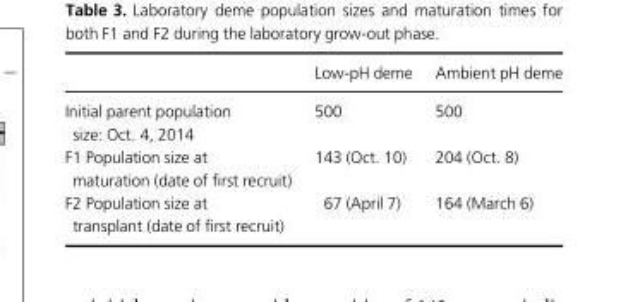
<table><thead><tr><td></td><td>Low-pH deme</td><td>Ambient pH deme</td></tr></thead><tbody><tr><td>Initial parent population size: Oct. 4, 2014</td><td>500</td><td>500</td></tr><tr><td>F1 Population size at maturation (date of first recruit)</td><td>143 (Oct. 10)</td><td>204 (Oct. 8)</td></tr><tr><td>F2 Population size at transplant (date of first recruit)</td><td>67 (April 7)</td><td>164 (March 6)</td></tr></tbody></table>